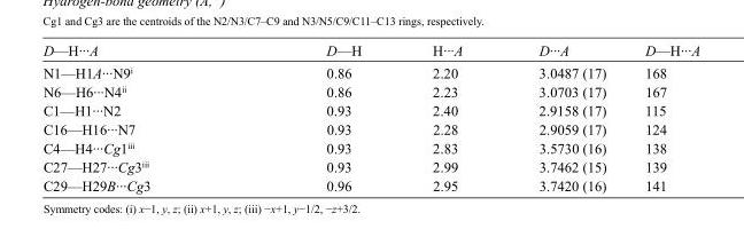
<table><tbody><tr><td>D—H···A</td><td>D—H</td><td>H···A</td><td>D···A</td><td>D—H···A</td></tr><tr><td>N1—H1A···N9<sup>i</sup></td><td>0.86</td><td>2.20</td><td>3.0487 (17)</td><td>168</td></tr><tr><td>N6—H6···N4<sup>ii</sup></td><td>0.86</td><td>2.23</td><td>3.0703 (17)</td><td>167</td></tr><tr><td>C1—H1···N2</td><td>0.93</td><td>2.40</td><td>2.9158 (17)</td><td>115</td></tr><tr><td>C16—H16···N7</td><td>0.93</td><td>2.28</td><td>2.9059 (17)</td><td>124</td></tr><tr><td>C4—H4···Cg1<sup>iii</sup></td><td>0.93</td><td>2.83</td><td>3.5730 (16)</td><td>138</td></tr><tr><td>C27—H27···Cg3<sup>iii</sup></td><td>0.93</td><td>2.99</td><td>3.7462 (15)</td><td>139</td></tr><tr><td>C29—H29B···Cg3</td><td>0.96</td><td>2.95</td><td>3.7420 (16)</td><td>141</td></tr></tbody></table>